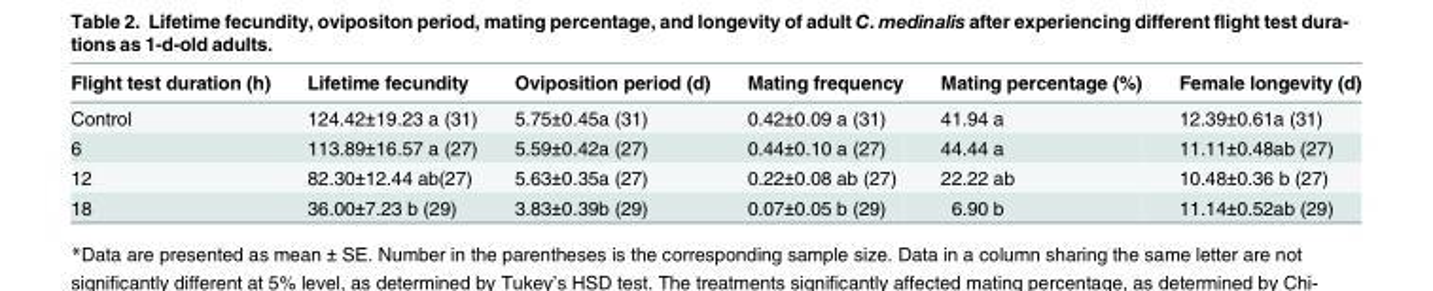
<table><thead><tr><td>Flight test duration (h)</td><td>Lifetime fecundity</td><td>Oviposition period (d)</td><td>Mating frequency</td><td>Mating percentage (%)</td><td>Female longevity (d)</td></tr></thead><tbody><tr><td>Control</td><td>124.42±19.23 a (31)</td><td>5.75±0.45a (31)</td><td>0.42±0.09 a (31)</td><td>41.94 a</td><td>12.39±0.61a (31)</td></tr><tr><td>6</td><td>113.89±16.57 a (27)</td><td>5.59±0.42a (27)</td><td>0.44±0.10 a (27)</td><td>44.44 a</td><td>11.11±0.48ab (27)</td></tr><tr><td>12</td><td>82.30±12.44 ab(27)</td><td>5.63±0.35a (27)</td><td>0.22±0.08 ab (27)</td><td>22.22 ab</td><td>10.48±0.36 b (27)</td></tr><tr><td>18</td><td>36.00±7.23 b (29)</td><td>3.83±0.39b (29)</td><td>0.07±0.05 b (29)</td><td>6.90 b</td><td>11.14±0.52ab (29)</td></tr></tbody></table>